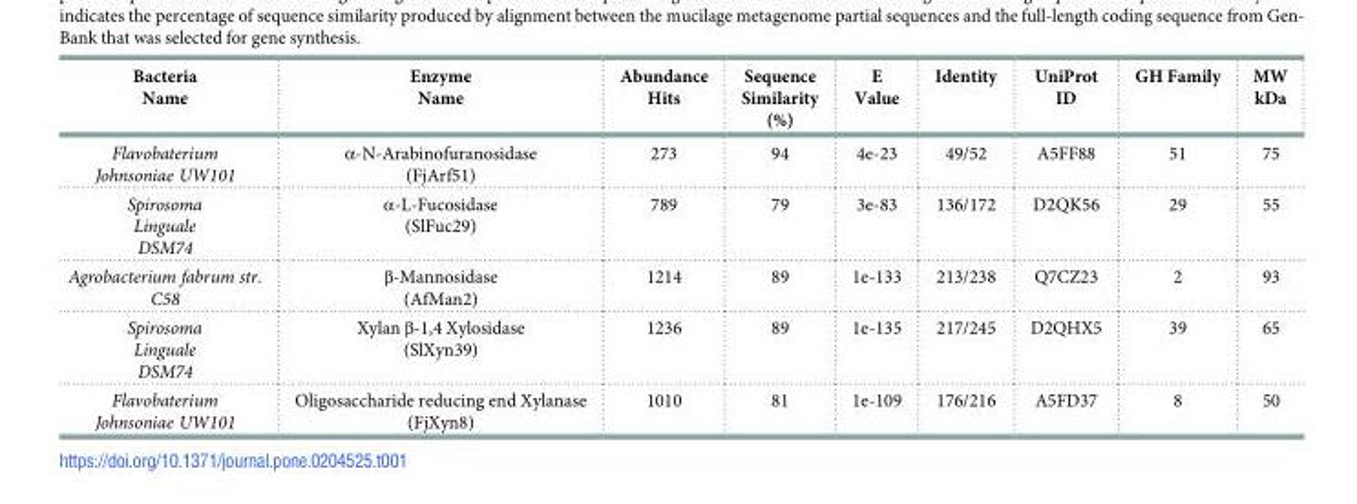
<table><thead><tr><td>Bacteria Name</td><td>Enzyme Name</td><td>Abundance Hits</td><td>Sequence Similarity (%)</td><td>E Value</td><td>Identity</td><td>UniProt ID</td><td>GH Family</td><td>MW kDa</td></tr></thead><tbody><tr><td>Flavobaterium Johnsoniae UW101</td><td>α-N-Arabinofuranosidase (FjArf51)</td><td>273</td><td>94</td><td>4e-23</td><td>49/52</td><td>A5FF88</td><td>51</td><td>75</td></tr><tr><td>Spirosoma Linguale DSM74</td><td>α-L-Fucosidase (SlFuc29)</td><td>789</td><td>79</td><td>3e-83</td><td>136/172</td><td>D2QK56</td><td>29</td><td>55</td></tr><tr><td>Agrobacterium fabrum str. C58</td><td>β-Mannosidase (AfMan2)</td><td>1214</td><td>89</td><td>1e-133</td><td>213/238</td><td>Q7CZ23</td><td>2</td><td>93</td></tr><tr><td>Spirosoma Linguale DSM74</td><td>Xylan β-1,4 Xylosidase (SlXyn39)</td><td>1236</td><td>89</td><td>1e-135</td><td>217/245</td><td>D2QHX5</td><td>39</td><td>65</td></tr><tr><td>Flavobaterium Johnsoniae UW101</td><td>Oligosaccharide reducing end Xylanase (FjXyn8)</td><td>1010</td><td>81</td><td>1e-109</td><td>176/216</td><td>A5FD37</td><td>8</td><td>50</td></tr></tbody></table>